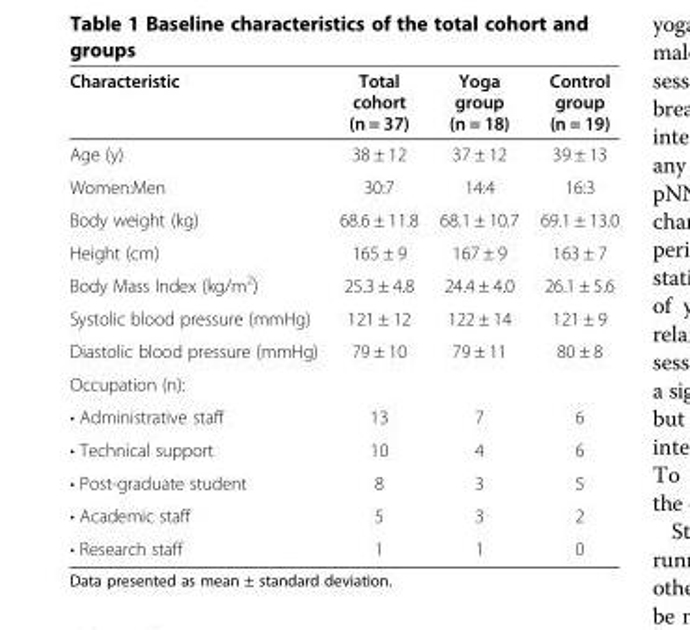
<table><thead><tr><td>Characteristic</td><td>Total cohort (n = 37)</td><td>Yoga group (n = 18)</td><td>Control group (n = 19)</td></tr></thead><tbody><tr><td>Age (y)</td><td>38 ± 12</td><td>37 ± 12</td><td>39 ± 13</td></tr><tr><td>Women:Men</td><td>30:7</td><td>14:4</td><td>16:3</td></tr><tr><td>Body weight (kg)</td><td>68.6 ± 11.8</td><td>68.1 ± 10.7</td><td>69.1 ± 13.0</td></tr><tr><td>Height (cm)</td><td>165 ± 9</td><td>167 ± 9</td><td>163 ± 7</td></tr><tr><td>Body Mass Index (kg/m<sup>2</sup>)</td><td>25.3 ± 4.8</td><td>24.4 ± 4.0</td><td>26.1 ± 5.6</td></tr><tr><td>Systolic blood pressure (mmHg)</td><td>121 ± 12</td><td>122 ± 14</td><td>121 ± 9</td></tr><tr><td>Diastolic blood pressure (mmHg)</td><td>79 ± 10</td><td>79 ± 11</td><td>80 ± 8</td></tr><tr><td colspan="4">Occupation (n):</td></tr><tr><td>• Administrative staff</td><td>13</td><td>7</td><td>6</td></tr><tr><td>• Technical support</td><td>10</td><td>4</td><td>6</td></tr><tr><td>• Post-graduate student</td><td>8</td><td>3</td><td>5</td></tr><tr><td>• Academic staff</td><td>5</td><td>3</td><td>2</td></tr><tr><td>• Research staff</td><td>1</td><td>1</td><td>0</td></tr></tbody></table>